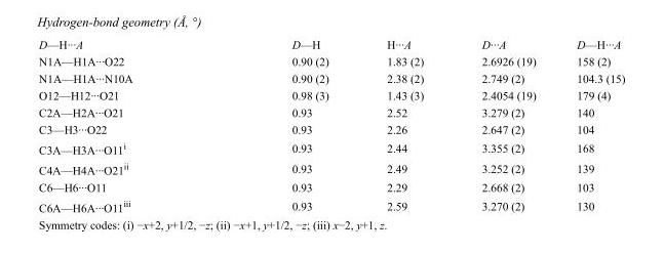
<table><tbody><tr><td>D—H···A</td><td>D—H</td><td>H···A</td><td>D···A</td><td>D—H···A</td></tr><tr><td>N1A—H1A···O22</td><td>0.90 (2)</td><td>1.83 (2)</td><td>2.6926 (19)</td><td>158 (2)</td></tr><tr><td>N1A—H1A···N10A</td><td>0.90 (2)</td><td>2.38 (2)</td><td>2.749 (2)</td><td>104.3 (15)</td></tr><tr><td>O12—H12···O21</td><td>0.98 (3)</td><td>1.43 (3)</td><td>2.4054 (19)</td><td>179 (4)</td></tr><tr><td>C2A—H2A···O21</td><td>0.93</td><td>2.52</td><td>3.279 (2)</td><td>140</td></tr><tr><td>C3—H3···O22</td><td>0.93</td><td>2.26</td><td>2.647 (2)</td><td>104</td></tr><tr><td>C3A—H3A···O11<sup>i</sup></td><td>0.93</td><td>2.44</td><td>3.355 (2)</td><td>168</td></tr><tr><td>C4A—H4A···O21<sup>ii</sup></td><td>0.93</td><td>2.49</td><td>3.252 (2)</td><td>139</td></tr><tr><td>C6—H6···O11</td><td>0.93</td><td>2.29</td><td>2.668 (2)</td><td>103</td></tr><tr><td>C6A—H6A···O11<sup>iii</sup></td><td>0.93</td><td>2.59</td><td>3.270 (2)</td><td>130</td></tr></tbody></table>